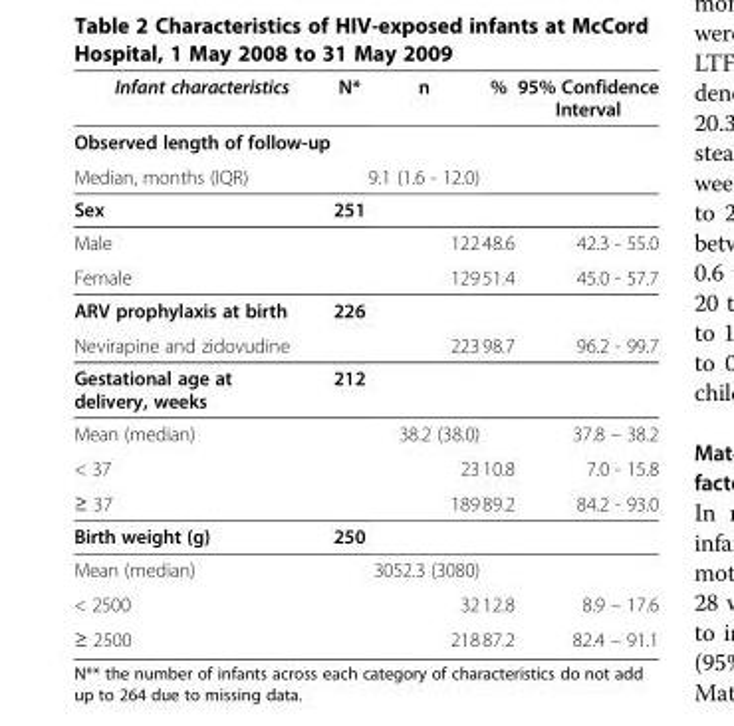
<table><thead><tr><td>Infant characteristics</td><td>N*</td><td>n</td><td>%</td><td>95% Confidence Interval</td></tr></thead><tbody><tr><td colspan="5">Observed length of follow-up</td></tr><tr><td>Median, months (IQR)</td><td></td><td>9.1 (1.6 - 12.0)</td><td></td><td></td></tr><tr><td>Sex</td><td>251</td><td></td><td></td><td></td></tr><tr><td>Male</td><td></td><td>122</td><td>48.6</td><td>42.3 - 55.0</td></tr><tr><td>Female</td><td></td><td>129</td><td>51.4</td><td>45.0 - 57.7</td></tr><tr><td>ARV prophylaxis at birth</td><td>226</td><td></td><td></td><td></td></tr><tr><td>Nevirapine and zidovudine</td><td></td><td>223</td><td>98.7</td><td>96.2 - 99.7</td></tr><tr><td>Gestational age at delivery, weeks</td><td>212</td><td></td><td></td><td></td></tr><tr><td>Mean (median)</td><td></td><td>38.2 (38.0)</td><td></td><td>37.8 – 38.2</td></tr><tr><td>&lt; 37</td><td></td><td>23</td><td>10.8</td><td>7.0 - 15.8</td></tr><tr><td>≥ 37</td><td></td><td>189</td><td>89.2</td><td>84.2 - 93.0</td></tr><tr><td>Birth weight (g)</td><td>250</td><td></td><td></td><td></td></tr><tr><td>Mean (median)</td><td></td><td>3052.3 (3080)</td><td></td><td></td></tr><tr><td>&lt; 2500</td><td></td><td>32</td><td>12.8</td><td>8.9 – 17.6</td></tr><tr><td>≥ 2500</td><td></td><td>218</td><td>87.2</td><td>82.4 – 91.1</td></tr></tbody></table>